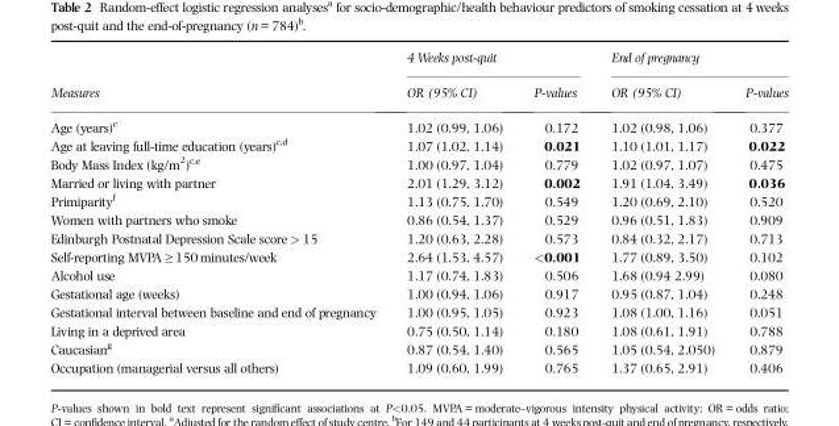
<table><thead><tr><td rowspan="2">Measures</td><td colspan="2">4 Weeks post-quit</td><td colspan="2">End of pregnancy</td></tr><tr><td>OR (95% CI)</td><td>P-values</td><td>OR (95% CI)</td><td>P-values</td></tr></thead><tbody><tr><td>Age (years)<sup>c</sup></td><td>1.02 (0.99, 1.06)</td><td>0.172</td><td>1.02 (0.98, 1.06)</td><td>0.377</td></tr><tr><td>Age at leaving full-time education (years)<sup>c</sup>,<sup>d</sup></td><td>1.07 (1.02, 1.14)</td><td>0.021</td><td>1.10 (1.01, 1.17)</td><td>0.022</td></tr><tr><td>Body Mass Index (kg/m<sup>2</sup>)<sup>c</sup>,<sup>e</sup></td><td>1.00 (0.97, 1.04)</td><td>0.779</td><td>1.02 (0.97, 1.07)</td><td>0.475</td></tr><tr><td>Married or living with partner</td><td>2.01 (1.29, 3.12)</td><td>0.002</td><td>1.91 (1.04, 3.49)</td><td>0.036</td></tr><tr><td>Primiparity<sup>f</sup></td><td>1.13 (0.75, 1.70)</td><td>0.549</td><td>1.20 (0.69, 2.10)</td><td>0.520</td></tr><tr><td>Women with partners who smoke</td><td>0.86 (0.54, 1.37)</td><td>0.529</td><td>0.96 (0.51, 1.83)</td><td>0.909</td></tr><tr><td>Edinburgh Postnatal Depression Scale score &gt; 15</td><td>1.20 (0.63, 2.28)</td><td>0.573</td><td>0.84 (0.32, 2.17)</td><td>0.713</td></tr><tr><td>Self-reporting MVPA ≥ 150 minutes/week</td><td>2.64 (1.53, 4.57)</td><td>&lt;0.001</td><td>1.77 (0.89, 3.50)</td><td>0.102</td></tr><tr><td>Alcohol use</td><td>1.17 (0.74, 1.83)</td><td>0.506</td><td>1.68 (0.94 2.99)</td><td>0.080</td></tr><tr><td>Gestational age (weeks)</td><td>1.00 (0.94, 1.06)</td><td>0.917</td><td>0.95 (0.87, 1.04)</td><td>0.248</td></tr><tr><td>Gestational interval between baseline and end of pregnancy</td><td>1.00 (0.95, 1.05)</td><td>0.923</td><td>1.08 (1.00, 1.16)</td><td>0.051</td></tr><tr><td>Living in a deprived area</td><td>0.75 (0.50, 1.14)</td><td>0.180</td><td>1.08 (0.61, 1.91)</td><td>0.788</td></tr><tr><td>Caucasian<sup>g</sup></td><td>0.87 (0.54, 1.40)</td><td>0.565</td><td>1.05 (0.54, 2.050)</td><td>0.879</td></tr><tr><td>Occupation (managerial versus all others)</td><td>1.09 (0.60, 1.99)</td><td>0.765</td><td>1.37 (0.65, 2.91)</td><td>0.406</td></tr></tbody></table>